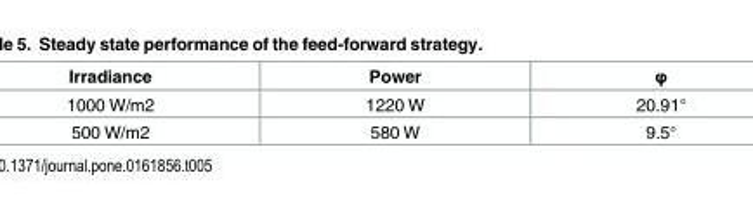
<table><thead><tr><td>Irradiance</td><td>Power</td><td>φ</td></tr></thead><tbody><tr><td>1000 W/m2</td><td>1220 W</td><td>20.91°</td></tr><tr><td>500 W/m2</td><td>580 W</td><td>9.5°</td></tr></tbody></table>